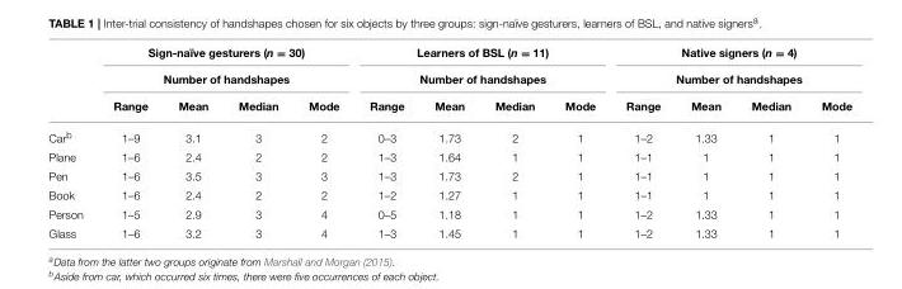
<table><thead><tr><td rowspan="3"></td><td rowspan="2" colspan="4">Sign-naïve gesturers (n = 30) Number of handshapes</td><td rowspan="2" colspan="4">Learners of BSL (n = 11) Number of handshapes</td><td rowspan="2" colspan="4">Native signers (n = 4) Number of handshapes</td></tr><tr></tr><tr><td>Range</td><td>Mean</td><td>Median</td><td>Mode</td><td>Range</td><td>Mean</td><td>Median</td><td>Mode</td><td>Range</td><td>Mean</td><td>Median</td><td>Mode</td></tr></thead><tbody><tr><td>Car<sup>b</sup></td><td>1–9</td><td>3.1</td><td>3</td><td>2</td><td>0–3</td><td>1.73</td><td>2</td><td>1</td><td>1–2</td><td>1.33</td><td>1</td><td>1</td></tr><tr><td>Plane</td><td>1–6</td><td>2.4</td><td>2</td><td>2</td><td>1–3</td><td>1.64</td><td>1</td><td>1</td><td>1–1</td><td>1</td><td>1</td><td>1</td></tr><tr><td>Pen</td><td>1–6</td><td>3.5</td><td>3</td><td>3</td><td>1–3</td><td>1.73</td><td>2</td><td>1</td><td>1–1</td><td>1</td><td>1</td><td>1</td></tr><tr><td>Book</td><td>1–6</td><td>2.4</td><td>2</td><td>2</td><td>1–2</td><td>1.27</td><td>1</td><td>1</td><td>1–1</td><td>1</td><td>1</td><td>1</td></tr><tr><td>Person</td><td>1–5</td><td>2.9</td><td>3</td><td>4</td><td>0–5</td><td>1.18</td><td>1</td><td>1</td><td>1–2</td><td>1.33</td><td>1</td><td>1</td></tr><tr><td>Glass</td><td>1–6</td><td>3.2</td><td>3</td><td>4</td><td>1–3</td><td>1.45</td><td>1</td><td>1</td><td>1–2</td><td>1.33</td><td>1</td><td>1</td></tr></tbody></table>